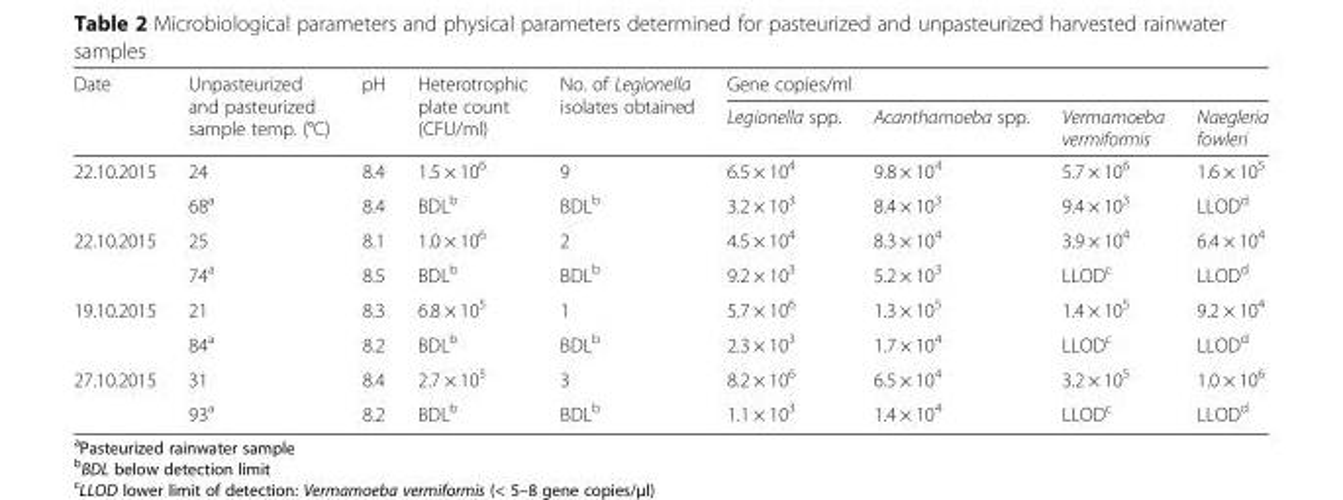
<table><thead><tr><td rowspan="2">Date</td><td rowspan="2">Unpasteurized and pasteurized sample temp. (°C)</td><td rowspan="2">pH</td><td rowspan="2">Heterotrophic plate count (CFU/ml)</td><td rowspan="2">No. of Legionella isolates obtained</td><td colspan="4">Gene copies/ml</td></tr><tr><td>Legionella spp.</td><td>Acanthamoeba spp.</td><td>Vermamoeba vermiformis</td><td>Naegleria fowleri</td></tr></thead><tbody><tr><td rowspan="2">22.10.2015</td><td>24</td><td>8.4</td><td>1.5 × 10<sup>6</sup></td><td>9</td><td>6.5 × 10<sup>4</sup></td><td>9.8 × 10<sup>4</sup></td><td>5.7 × 10<sup>6</sup></td><td>1.6 × 10<sup>5</sup></td></tr><tr><td>68<sup>a</sup></td><td>8.4</td><td>BDL<sup>b</sup></td><td>BDL<sup>b</sup></td><td>3.2 × 10<sup>3</sup></td><td>8.4 × 10<sup>3</sup></td><td>9.4 × 10<sup>3</sup></td><td>LLOD<sup>d</sup></td></tr><tr><td rowspan="2">22.10.2015</td><td>25</td><td>8.1</td><td>1.0 × 10<sup>6</sup></td><td>2</td><td>4.5 × 10<sup>4</sup></td><td>8.3 × 10<sup>4</sup></td><td>3.9 × 10<sup>4</sup></td><td>6.4 × 10<sup>4</sup></td></tr><tr><td>74<sup>a</sup></td><td>8.5</td><td>BDL<sup>b</sup></td><td>BDL<sup>b</sup></td><td>9.2 × 10<sup>3</sup></td><td>5.2 × 10<sup>3</sup></td><td>LLOD<sup>c</sup></td><td>LLOD<sup>d</sup></td></tr><tr><td rowspan="2">19.10.2015</td><td>21</td><td>8.3</td><td>6.8 × 10<sup>5</sup></td><td>1</td><td>5.7 × 10<sup>6</sup></td><td>1.3 × 10<sup>5</sup></td><td>1.4 × 10<sup>5</sup></td><td>9.2 × 10<sup>4</sup></td></tr><tr><td>84<sup>a</sup></td><td>8.2</td><td>BDL<sup>b</sup></td><td>BDL<sup>b</sup></td><td>2.3 × 10<sup>3</sup></td><td>1.7 × 10<sup>4</sup></td><td>LLOD<sup>c</sup></td><td>LLOD<sup>d</sup></td></tr><tr><td rowspan="2">27.10.2015</td><td>31</td><td>8.4</td><td>2.7 × 10<sup>5</sup></td><td>3</td><td>8.2 × 10<sup>6</sup></td><td>6.5 × 10<sup>4</sup></td><td>3.2 × 10<sup>5</sup></td><td>1.0 × 10<sup>6</sup></td></tr><tr><td>93<sup>a</sup></td><td>8.2</td><td>BDL<sup>b</sup></td><td>BDL<sup>b</sup></td><td>1.1 × 10<sup>3</sup></td><td>1.4 × 10<sup>4</sup></td><td>LLOD<sup>c</sup></td><td>LLOD<sup>d</sup></td></tr></tbody></table>